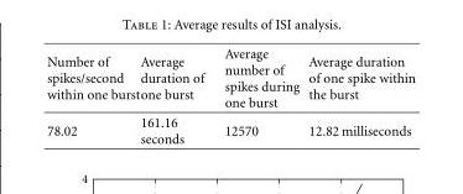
<table><thead><tr><td>Number of spikes/second within one burst</td><td>Average duration of one burst</td><td>Average number of spikes during one burst</td><td>Average duration of one spike within the burst</td></tr></thead><tbody><tr><td>78.02</td><td>161.16 seconds</td><td>12570</td><td>12.82 milliseconds</td></tr></tbody></table>